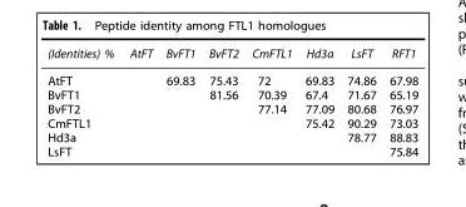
<table><thead><tr><td>(Identities) %</td><td>AtFT</td><td>BvFT1</td><td>BvFT2</td><td>CmFTL1</td><td>Hd3a</td><td>LsFT</td><td>RFT1</td></tr></thead><tbody><tr><td>AtFT</td><td></td><td>69.83</td><td>75.43</td><td>72</td><td>69.83</td><td>74.86</td><td>67.98</td></tr><tr><td>BvFT1</td><td></td><td></td><td>81.56</td><td>70.39</td><td>67.4</td><td>71.67</td><td>65.19</td></tr><tr><td>BvFT2</td><td></td><td></td><td></td><td>77.14</td><td>77.09</td><td>80.68</td><td>76.97</td></tr><tr><td>CmFTL1</td><td></td><td></td><td></td><td></td><td>75.42</td><td>90.29</td><td>73.03</td></tr><tr><td>Hd3a</td><td></td><td></td><td></td><td></td><td></td><td>78.77</td><td>88.83</td></tr><tr><td>LsFT</td><td></td><td></td><td></td><td></td><td></td><td></td><td>75.84</td></tr></tbody></table>